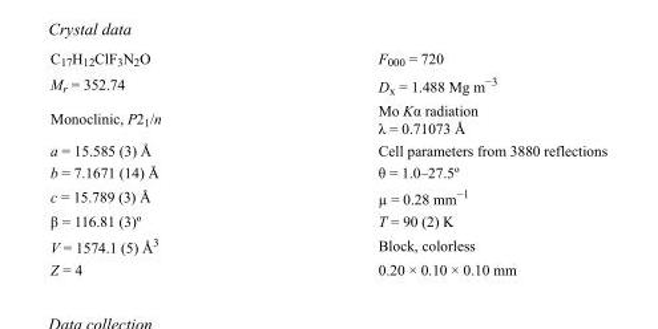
<table><tbody><tr><td>C<sub>17</sub>H<sub>12</sub>ClF<sub>3</sub>N<sub>2</sub>O</td><td>F000 = 720</td></tr><tr><td>M<sub>r</sub> = 352.74</td><td>D<sub>x</sub> = 1.488 Mg m<sup>−3</sup></td></tr><tr><td>Monoclinic, P2<sub>1</sub>/n</td><td>Mo Kα radiation λ = 0.71073 Å</td></tr><tr><td>a = 15.585 (3) Å</td><td>Cell parameters from 3880 reflections</td></tr><tr><td>b = 7.1671 (14) Å</td><td>θ = 1.0–27.5º</td></tr><tr><td>c = 15.789 (3) Å</td><td>µ = 0.28 mm<sup>−1</sup></td></tr><tr><td>β = 116.81 (3)º</td><td>T = 90 (2) K</td></tr><tr><td>V = 1574.1 (5) Å<sup>3</sup></td><td>Block, colorless</td></tr><tr><td>Z = 4</td><td>0.20 × 0.10 × 0.10 mm</td></tr></tbody></table>